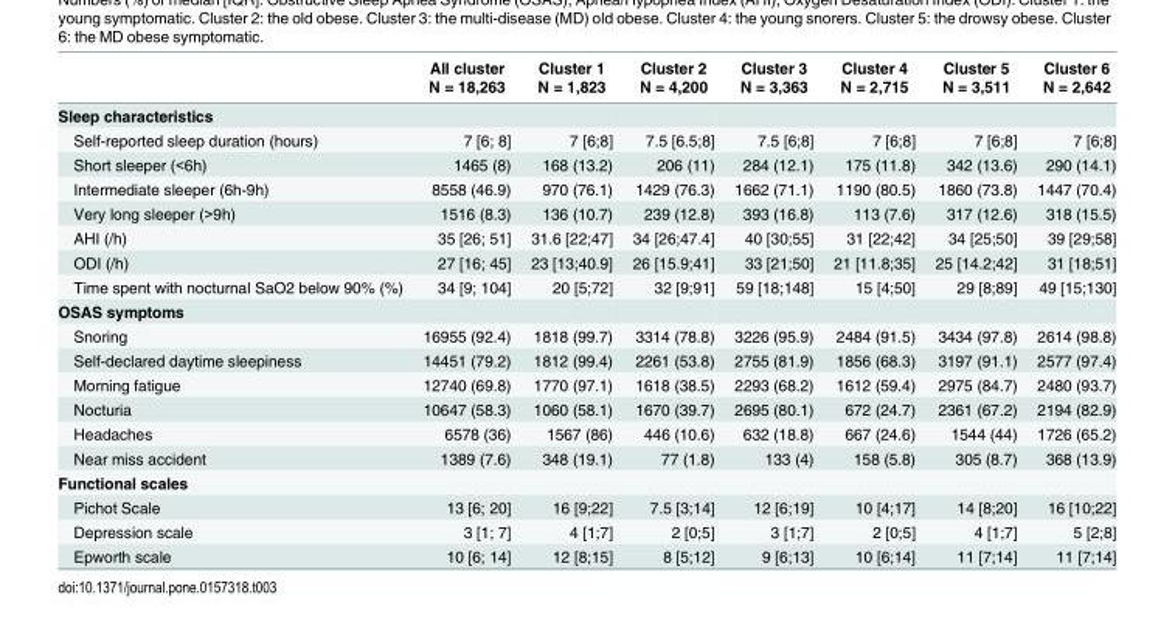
<table><thead><tr><td rowspan="2"></td><td rowspan="2">All cluster N = 18,263</td><td rowspan="2">Cluster 1 N = 1,823</td><td rowspan="2">Cluster 2 N = 4,200</td><td rowspan="2">Cluster 3 N = 3,363</td><td rowspan="2">Cluster 4 N = 2,715</td><td rowspan="2">Cluster 5 N = 3,511</td><td rowspan="2">Cluster 6 N = 2,642</td></tr><tr></tr></thead><tbody><tr><td colspan="8">Sleep characteristics</td></tr><tr><td>Self-reported sleep duration (hours)</td><td>7 [6; 8]</td><td>7 [6;8]</td><td>7.5 [6.5;8]</td><td>7.5 [6;8]</td><td>7 [6;8]</td><td>7 [6;8]</td><td>7 [6;8]</td></tr><tr><td>Short sleeper (&lt;6h)</td><td>1465 (8)</td><td>168 (13.2)</td><td>206 (11)</td><td>284 (12.1)</td><td>175 (11.8)</td><td>342 (13.6)</td><td>290 (14.1)</td></tr><tr><td>Intermediate sleeper (6h-9h)</td><td>8558 (46.9)</td><td>970 (76.1)</td><td>1429 (76.3)</td><td>1662 (71.1)</td><td>1190 (80.5)</td><td>1860 (73.8)</td><td>1447 (70.4)</td></tr><tr><td>Very long sleeper (&gt;9h)</td><td>1516 (8.3)</td><td>136 (10.7)</td><td>239 (12.8)</td><td>393 (16.8)</td><td>113 (7.6)</td><td>317 (12.6)</td><td>318 (15.5)</td></tr><tr><td>AHI (/h)</td><td>35 [26; 51]</td><td>31.6 [22;47]</td><td>34 [26;47.4]</td><td>40 [30;55]</td><td>31 [22;42]</td><td>34 [25;50]</td><td>39 [29;58]</td></tr><tr><td>ODI (/h)</td><td>27 [16; 45]</td><td>23 [13;40.9]</td><td>26 [15.9;41]</td><td>33 [21;50]</td><td>21 [11.8;35]</td><td>25 [14.2;42]</td><td>31 [18;51]</td></tr><tr><td>Time spent with nocturnal SaO2 below 90% (%)</td><td>34 [9; 104]</td><td>20 [5;72]</td><td>32 [9;91]</td><td>59 [18;148]</td><td>15 [4;50]</td><td>29 [8;89]</td><td>49 [15;130]</td></tr><tr><td colspan="8">OSAS symptoms</td></tr><tr><td>Snoring</td><td>16955 (92.4)</td><td>1818 (99.7)</td><td>3314 (78.8)</td><td>3226 (95.9)</td><td>2484 (91.5)</td><td>3434 (97.8)</td><td>2614 (98.8)</td></tr><tr><td>Self-declared daytime sleepiness</td><td>14451 (79.2)</td><td>1812 (99.4)</td><td>2261 (53.8)</td><td>2755 (81.9)</td><td>1856 (68.3)</td><td>3197 (91.1)</td><td>2577 (97.4)</td></tr><tr><td>Morning fatigue</td><td>12740 (69.8)</td><td>1770 (97.1)</td><td>1618 (38.5)</td><td>2293 (68.2)</td><td>1612 (59.4)</td><td>2975 (84.7)</td><td>2480 (93.7)</td></tr><tr><td>Nocturia</td><td>10647 (58.3)</td><td>1060 (58.1)</td><td>1670 (39.7)</td><td>2695 (80.1)</td><td>672 (24.7)</td><td>2361 (67.2)</td><td>2194 (82.9)</td></tr><tr><td>Headaches</td><td>6578 (36)</td><td>1567 (86)</td><td>446 (10.6)</td><td>632 (18.8)</td><td>667 (24.6)</td><td>1544 (44)</td><td>1726 (65.2)</td></tr><tr><td>Near miss accident</td><td>1389 (7.6)</td><td>348 (19.1)</td><td>77 (1.8)</td><td>133 (4)</td><td>158 (5.8)</td><td>305 (8.7)</td><td>368 (13.9)</td></tr><tr><td colspan="8">Functional scales</td></tr><tr><td>Pichot Scale</td><td>13 [6; 20]</td><td>16 [9;22]</td><td>7.5 [3;14]</td><td>12 [6;19]</td><td>10 [4;17]</td><td>14 [8;20]</td><td>16 [10;22]</td></tr><tr><td>Depression scale</td><td>3 [1; 7]</td><td>4 [1;7]</td><td>2 [0;5]</td><td>3 [1;7]</td><td>2 [0;5]</td><td>4 [1;7]</td><td>5 [2;8]</td></tr><tr><td>Epworth scale</td><td>10 [6; 14]</td><td>12 [8;15]</td><td>8 [5;12]</td><td>9 [6;13]</td><td>10 [6;14]</td><td>11 [7;14]</td><td>11 [7;14]</td></tr></tbody></table>